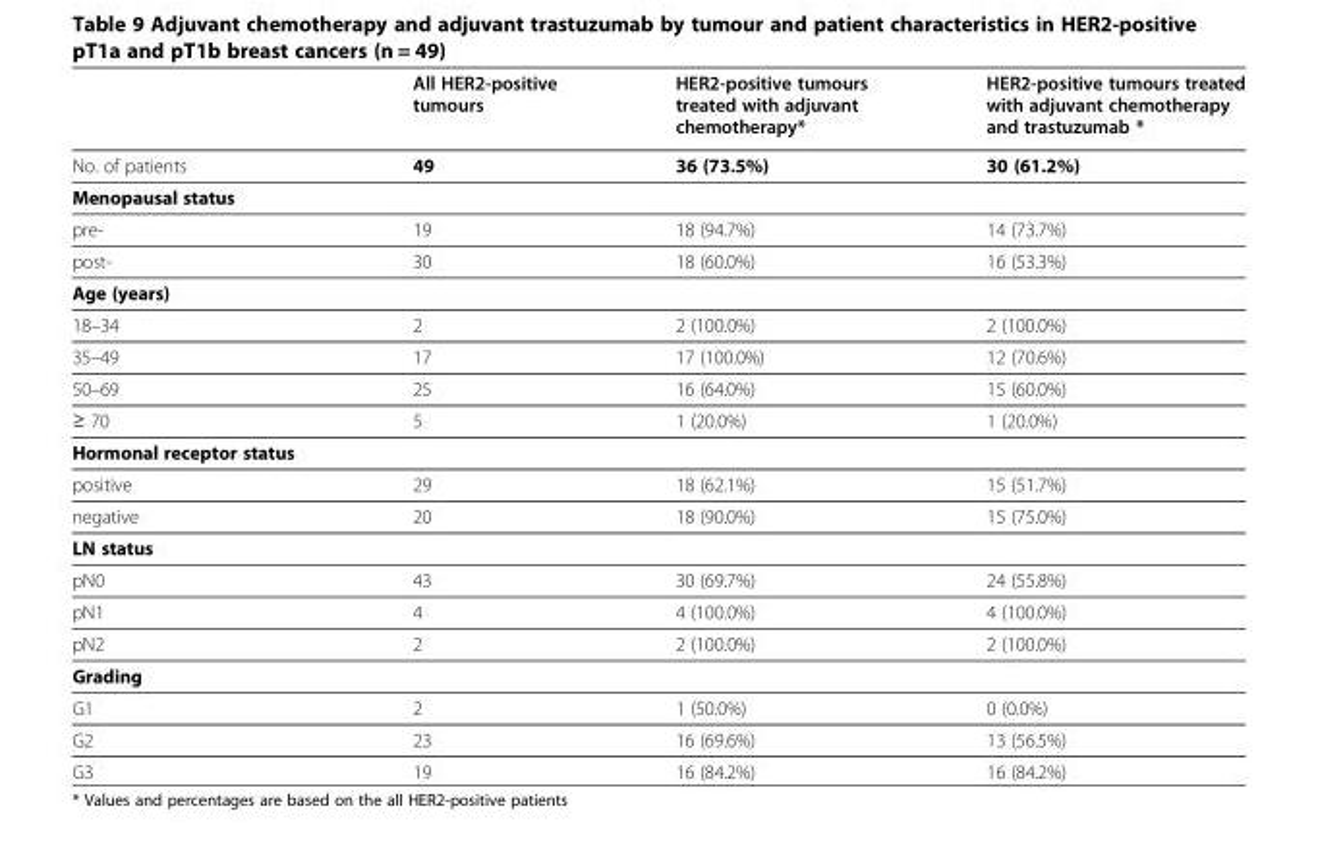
<table><thead><tr><td></td><td>All HER2-positive tumours</td><td>HER2-positive tumours treated with adjuvant chemotherapy*</td><td>HER2-positive tumours treated with adjuvant chemotherapy and trastuzumab *</td></tr></thead><tbody><tr><td>No. of patients</td><td>49</td><td>36 (73.5%)</td><td>30 (61.2%)</td></tr><tr><td colspan="4">Menopausal status</td></tr><tr><td>pre-</td><td>19</td><td>18 (94.7%)</td><td>14 (73.7%)</td></tr><tr><td>post-</td><td>30</td><td>18 (60.0%)</td><td>16 (53.3%)</td></tr><tr><td colspan="4">Age (years)</td></tr><tr><td>18–34</td><td>2</td><td>2 (100.0%)</td><td>2 (100.0%)</td></tr><tr><td>35–49</td><td>17</td><td>17 (100.0%)</td><td>12 (70.6%)</td></tr><tr><td>50–69</td><td>25</td><td>16 (64.0%)</td><td>15 (60.0%)</td></tr><tr><td>≥ 70</td><td>5</td><td>1 (20.0%)</td><td>1 (20.0%)</td></tr><tr><td colspan="4">Hormonal receptor status</td></tr><tr><td>positive</td><td>29</td><td>18 (62.1%)</td><td>15 (51.7%)</td></tr><tr><td>negative</td><td>20</td><td>18 (90.0%)</td><td>15 (75.0%)</td></tr><tr><td colspan="4">LN status</td></tr><tr><td>pN0</td><td>43</td><td>30 (69.7%)</td><td>24 (55.8%)</td></tr><tr><td>pN1</td><td>4</td><td>4 (100.0%)</td><td>4 (100.0%)</td></tr><tr><td>pN2</td><td>2</td><td>2 (100.0%)</td><td>2 (100.0%)</td></tr><tr><td colspan="4">Grading</td></tr><tr><td>G1</td><td>2</td><td>1 (50.0%)</td><td>0 (0.0%)</td></tr><tr><td>G2</td><td>23</td><td>16 (69.6%)</td><td>13 (56.5%)</td></tr><tr><td>G3</td><td>19</td><td>16 (84.2%)</td><td>16 (84.2%)</td></tr></tbody></table>